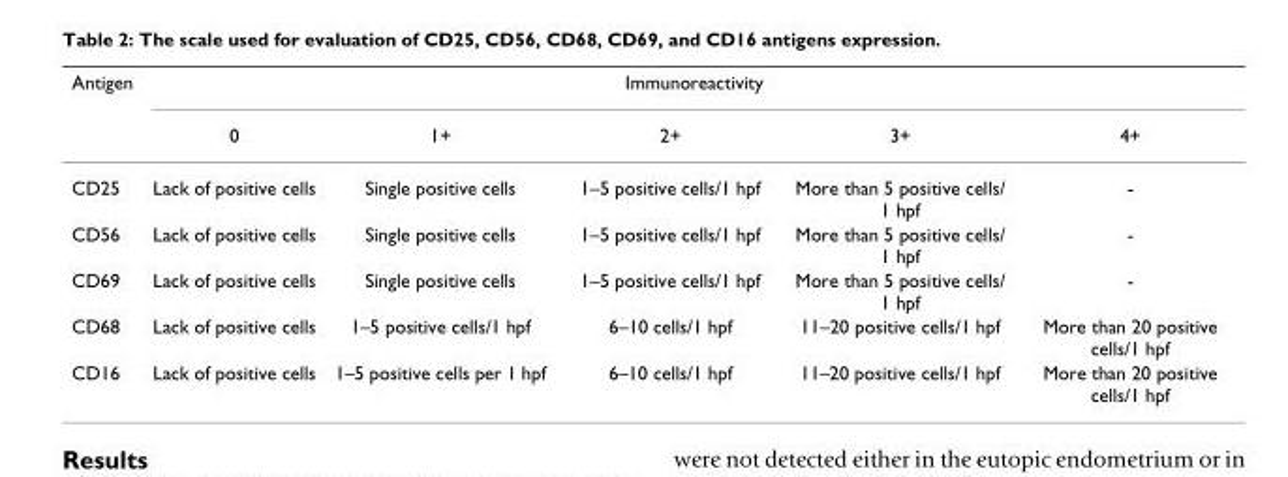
<table><thead><tr><td rowspan="2">Antigen</td><td colspan="5">Immunoreactivity</td></tr><tr><td>0</td><td>1+</td><td>2+</td><td>3+</td><td>4+</td></tr></thead><tbody><tr><td>CD25</td><td>Lack of positive cells</td><td>Single positive cells</td><td>1–5 positive cells/1 hpf</td><td>More than 5 positive cells/ 1 hpf</td><td>-</td></tr><tr><td>CD56</td><td>Lack of positive cells</td><td>Single positive cells</td><td>1–5 positive cells/1 hpf</td><td>More than 5 positive cells/ 1 hpf</td><td>-</td></tr><tr><td>CD69</td><td>Lack of positive cells</td><td>Single positive cells</td><td>1–5 positive cells/1 hpf</td><td>More than 5 positive cells/ 1 hpf</td><td>-</td></tr><tr><td>CD68</td><td>Lack of positive cells</td><td>1–5 positive cells/1 hpf</td><td>6–10 cells/1 hpf</td><td>11–20 positive cells/1 hpf</td><td>More than 20 positive cells/1 hpf</td></tr><tr><td>CD16</td><td>Lack of positive cells</td><td>1–5 positive cells per 1 hpf</td><td>6–10 cells/1 hpf</td><td>11–20 positive cells/1 hpf</td><td>More than 20 positive cells/1 hpf</td></tr></tbody></table>